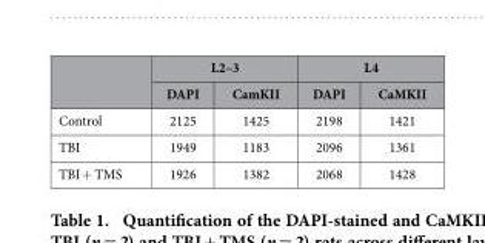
<table><thead><tr><td rowspan="2"></td><td colspan="2">L2–3</td><td colspan="2">L4</td></tr><tr><td>DAPI</td><td>CamKII</td><td>DAPI</td><td>CaMKII</td></tr></thead><tbody><tr><td>Control</td><td>2125</td><td>1425</td><td>2198</td><td>1421</td></tr><tr><td>TBI</td><td>1949</td><td>1183</td><td>2096</td><td>1361</td></tr><tr><td>TBI + TMS</td><td>1926</td><td>1382</td><td>2068</td><td>1428</td></tr></tbody></table>